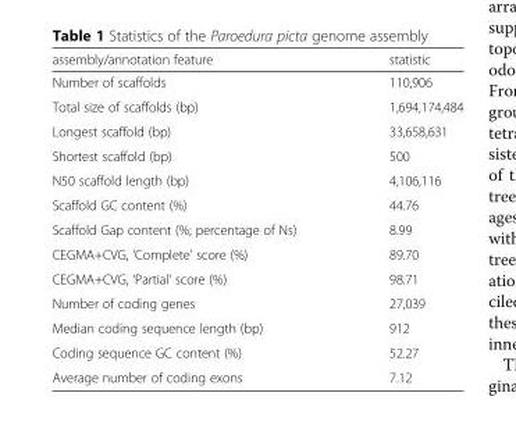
<table><thead><tr><td>assembly/annotation feature</td><td>statistic</td></tr></thead><tbody><tr><td>Number of scaffolds</td><td>110,906</td></tr><tr><td>Total size of scaffolds (bp)</td><td>1,694,174,484</td></tr><tr><td>Longest scaffold (bp)</td><td>33,658,631</td></tr><tr><td>Shortest scaffold (bp)</td><td>500</td></tr><tr><td>N50 scaffold length (bp)</td><td>4,106,116</td></tr><tr><td>Scaffold GC content (%)</td><td>44.76</td></tr><tr><td>Scaffold Gap content (%; percentage of Ns)</td><td>8.99</td></tr><tr><td>CEGMA+CVG, ‘Complete’ score (%)</td><td>89.70</td></tr><tr><td>CEGMA+CVG, ‘Partial’ score (%)</td><td>98.71</td></tr><tr><td>Number of coding genes</td><td>27,039</td></tr><tr><td>Median coding sequence length (bp)</td><td>912</td></tr><tr><td>Coding sequence GC content (%)</td><td>52.27</td></tr><tr><td>Average number of coding exons</td><td>7.12</td></tr></tbody></table>